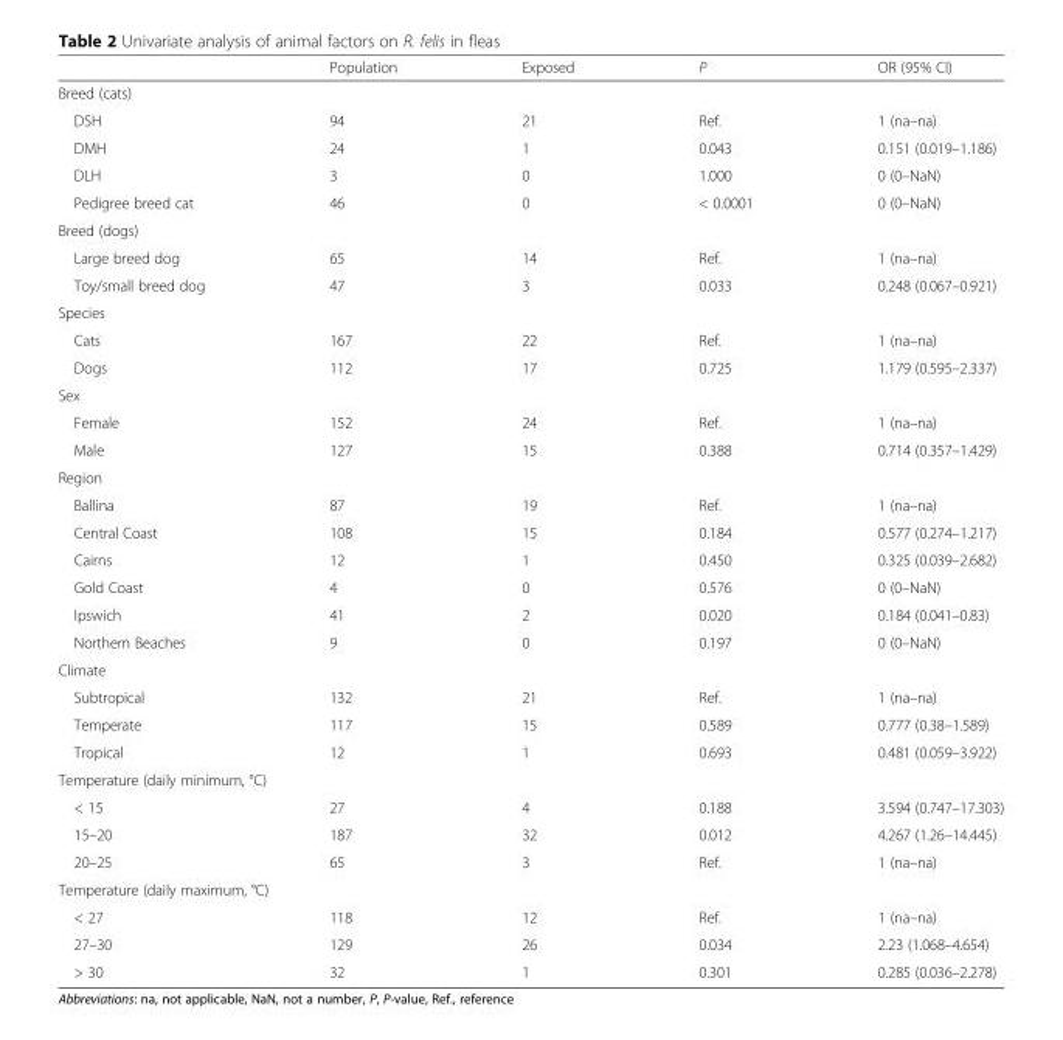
<table><thead><tr><td></td><td>Population</td><td>Exposed</td><td>P</td><td>OR (95% CI)</td></tr></thead><tbody><tr><td colspan="5">Breed (cats)</td></tr><tr><td>DSH</td><td>94</td><td>21</td><td>Ref.</td><td>1 (na–na)</td></tr><tr><td>DMH</td><td>24</td><td>1</td><td>0.043</td><td>0.151 (0.019–1.186)</td></tr><tr><td>DLH</td><td>3</td><td>0</td><td>1.000</td><td>0 (0–NaN)</td></tr><tr><td>Pedigree breed cat</td><td>46</td><td>0</td><td>&lt; 0.0001</td><td>0 (0–NaN)</td></tr><tr><td colspan="5">Breed (dogs)</td></tr><tr><td>Large breed dog</td><td>65</td><td>14</td><td>Ref.</td><td>1 (na–na)</td></tr><tr><td>Toy/small breed dog</td><td>47</td><td>3</td><td>0.033</td><td>0.248 (0.067–0.921)</td></tr><tr><td colspan="5">Species</td></tr><tr><td>Cats</td><td>167</td><td>22</td><td>Ref.</td><td>1 (na–na)</td></tr><tr><td>Dogs</td><td>112</td><td>17</td><td>0.725</td><td>1.179 (0.595–2.337)</td></tr><tr><td colspan="5">Sex</td></tr><tr><td>Female</td><td>152</td><td>24</td><td>Ref.</td><td>1 (na–na)</td></tr><tr><td>Male</td><td>127</td><td>15</td><td>0.388</td><td>0.714 (0.357–1.429)</td></tr><tr><td colspan="5">Region</td></tr><tr><td>Ballina</td><td>87</td><td>19</td><td>Ref.</td><td>1 (na–na)</td></tr><tr><td>Central Coast</td><td>108</td><td>15</td><td>0.184</td><td>0.577 (0.274–1.217)</td></tr><tr><td>Cairns</td><td>12</td><td>1</td><td>0.450</td><td>0.325 (0.039–2.682)</td></tr><tr><td>Gold Coast</td><td>4</td><td>0</td><td>0.576</td><td>0 (0–NaN)</td></tr><tr><td>Ipswich</td><td>41</td><td>2</td><td>0.020</td><td>0.184 (0.041–0.83)</td></tr><tr><td>Northern Beaches</td><td>9</td><td>0</td><td>0.197</td><td>0 (0–NaN)</td></tr><tr><td colspan="5">Climate</td></tr><tr><td>Subtropical</td><td>132</td><td>21</td><td>Ref.</td><td>1 (na–na)</td></tr><tr><td>Temperate</td><td>117</td><td>15</td><td>0.589</td><td>0.777 (0.38–1.589)</td></tr><tr><td>Tropical</td><td>12</td><td>1</td><td>0.693</td><td>0.481 (0.059–3.922)</td></tr><tr><td colspan="5">Temperature (daily minimum, °C)</td></tr><tr><td>&lt; 15</td><td>27</td><td>4</td><td>0.188</td><td>3.594 (0.747–17.303)</td></tr><tr><td>15–20</td><td>187</td><td>32</td><td>0.012</td><td>4.267 (1.26–14.445)</td></tr><tr><td>20–25</td><td>65</td><td>3</td><td>Ref.</td><td>1 (na–na)</td></tr><tr><td colspan="5">Temperature (daily maximum, °C)</td></tr><tr><td>&lt; 27</td><td>118</td><td>12</td><td>Ref.</td><td>1 (na–na)</td></tr><tr><td>27–30</td><td>129</td><td>26</td><td>0.034</td><td>2.23 (1.068–4.654)</td></tr><tr><td>&gt; 30</td><td>32</td><td>1</td><td>0.301</td><td>0.285 (0.036–2.278)</td></tr></tbody></table>